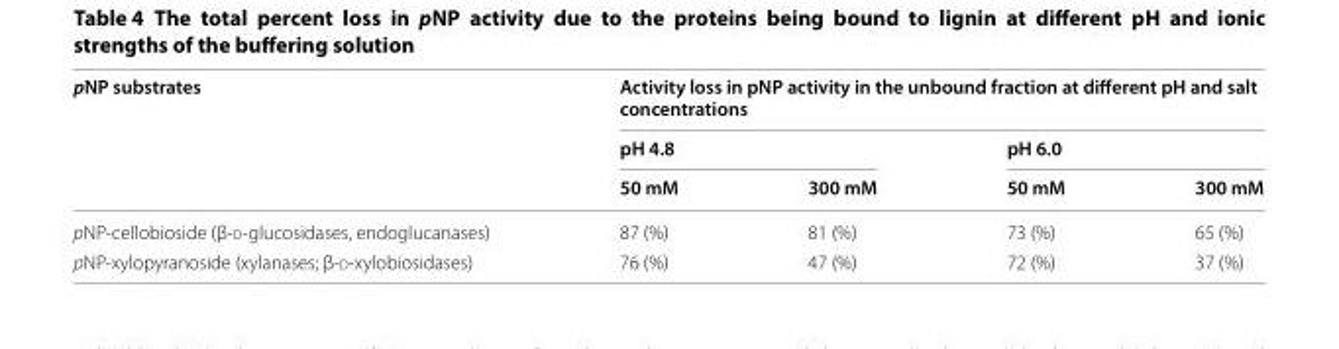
<table><thead><tr><td rowspan="3">pNP substrates</td><td colspan="4">Activity loss in pNP activity in the unbound fraction at different pH and salt concentrations</td></tr><tr><td colspan="2">pH 4.8</td><td colspan="2">pH 6.0</td></tr><tr><td>50 mM</td><td>300 mM</td><td>50 mM</td><td>300 mM</td></tr></thead><tbody><tr><td>pNP-cellobioside (β-d-glucosidases, endoglucanases)</td><td>87 (%)</td><td>81 (%)</td><td>73 (%)</td><td>65 (%)</td></tr><tr><td>pNP-xylopyranoside (xylanases; β-d-xylobiosidases)</td><td>76 (%)</td><td>47 (%)</td><td>72 (%)</td><td>37 (%)</td></tr></tbody></table>